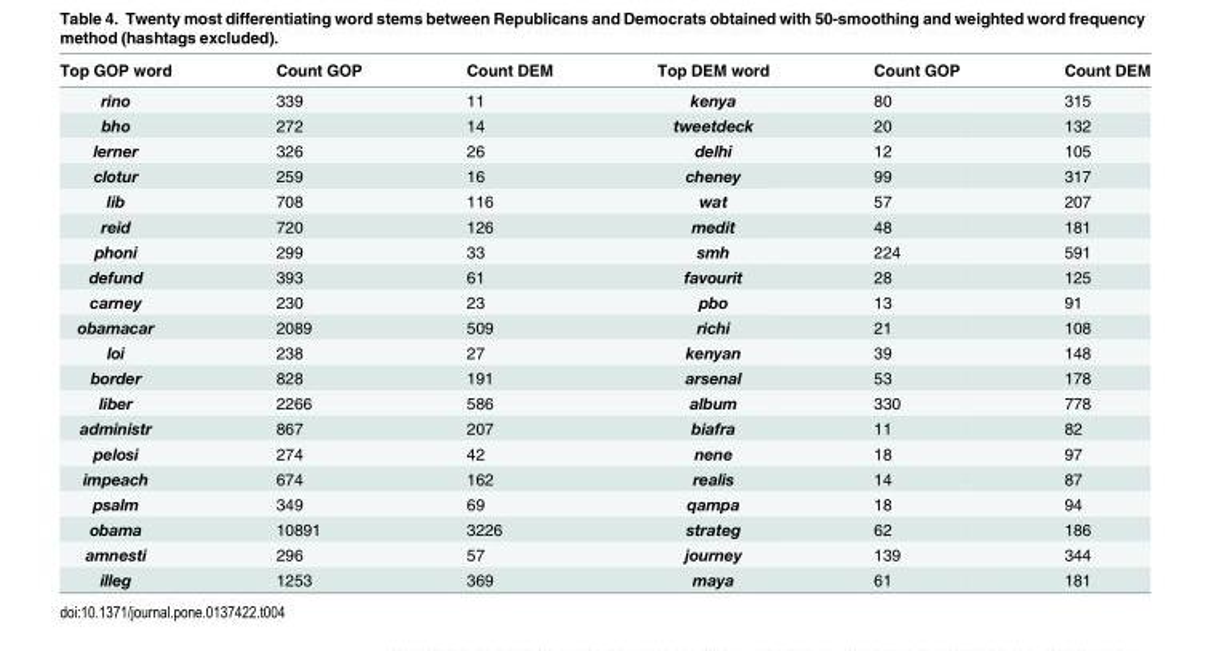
<table><thead><tr><td>Top GOP word</td><td>Count GOP</td><td>Count DEM</td><td>Top DEM word</td><td>Count GOP</td><td>Count DEM</td></tr></thead><tbody><tr><td>rino</td><td>339</td><td>11</td><td>kenya</td><td>80</td><td>315</td></tr><tr><td>bho</td><td>272</td><td>14</td><td>tweetdeck</td><td>20</td><td>132</td></tr><tr><td>lerner</td><td>326</td><td>26</td><td>delhi</td><td>12</td><td>105</td></tr><tr><td>clotur</td><td>259</td><td>16</td><td>cheney</td><td>99</td><td>317</td></tr><tr><td>lib</td><td>708</td><td>116</td><td>wat</td><td>57</td><td>207</td></tr><tr><td>reid</td><td>720</td><td>126</td><td>medit</td><td>48</td><td>181</td></tr><tr><td>phoni</td><td>299</td><td>33</td><td>smh</td><td>224</td><td>591</td></tr><tr><td>defund</td><td>393</td><td>61</td><td>favourit</td><td>28</td><td>125</td></tr><tr><td>carney</td><td>230</td><td>23</td><td>pbo</td><td>13</td><td>91</td></tr><tr><td>obamacar</td><td>2089</td><td>509</td><td>richi</td><td>21</td><td>108</td></tr><tr><td>loi</td><td>238</td><td>27</td><td>kenyan</td><td>39</td><td>148</td></tr><tr><td>border</td><td>828</td><td>191</td><td>arsenal</td><td>53</td><td>178</td></tr><tr><td>liber</td><td>2266</td><td>586</td><td>album</td><td>330</td><td>778</td></tr><tr><td>administr</td><td>867</td><td>207</td><td>biafra</td><td>11</td><td>82</td></tr><tr><td>pelosi</td><td>274</td><td>42</td><td>nene</td><td>18</td><td>97</td></tr><tr><td>impeach</td><td>674</td><td>162</td><td>realis</td><td>14</td><td>87</td></tr><tr><td>psalm</td><td>349</td><td>69</td><td>qampa</td><td>18</td><td>94</td></tr><tr><td>obama</td><td>10891</td><td>3226</td><td>strateg</td><td>62</td><td>186</td></tr><tr><td>amnesti</td><td>296</td><td>57</td><td>journey</td><td>139</td><td>344</td></tr><tr><td>illeg</td><td>1253</td><td>369</td><td>maya</td><td>61</td><td>181</td></tr></tbody></table>